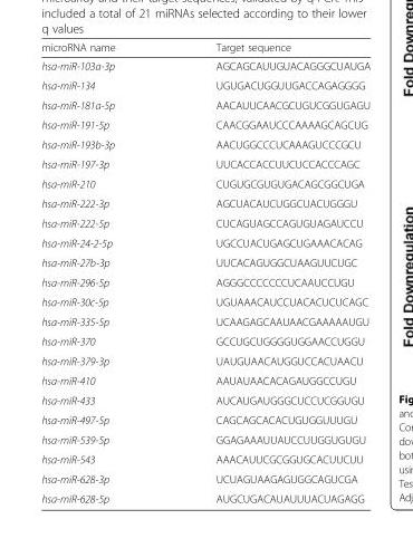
<table><thead><tr><td>microRNA name</td><td>Target sequence</td></tr></thead><tbody><tr><td>hsa-miR-103a-3p</td><td>AGCAGCAUUGUACAGGGCUAUGA</td></tr><tr><td>hsa-miR-134</td><td>UGUGACUGGUUGACCAGAGGGG</td></tr><tr><td>hsa-miR-181a-5p</td><td>AACAUUCAACGCUGUCGGUGAGU</td></tr><tr><td>hsa-miR-191-5p</td><td>CAACGGAAUCCCAAAAGCAGCUG</td></tr><tr><td>hsa-miR-193b-3p</td><td>AACUGGCCCUCAAAGUCCCGCU</td></tr><tr><td>hsa-miR-197-3p</td><td>UUCACCACCUUCUCCACCCAGC</td></tr><tr><td>hsa-miR-210</td><td>CUGUGCGUGUGACAGCGGCUGA</td></tr><tr><td>hsa-miR-222-3p</td><td>AGCUACAUCUGGCUACUGGGU</td></tr><tr><td>hsa-miR-222-5p</td><td>CUCAGUAGCCAGUGUAGAUCCU</td></tr><tr><td>hsa-miR-24-2-5p</td><td>UGCCUACUGAGCUGAAACACAG</td></tr><tr><td>hsa-miR-27b-3p</td><td>UUCACAGUGGCUAAGUUCUGC</td></tr><tr><td>hsa-miR-296-5p</td><td>AGGGCCCCCCCUCAAUCCUGU</td></tr><tr><td>hsa-miR-30c-5p</td><td>UGUAAACAUCCUACACUCUCAGC</td></tr><tr><td>hsa-miR-335-5p</td><td>UCAAGAGCAAUAACGAAAAAUGU</td></tr><tr><td>hsa-miR-370</td><td>GCCUGCUGGGGUGGAACCUGGU</td></tr><tr><td>hsa-miR-379-3p</td><td>UAUGUAACAUGGUCCACUAACU</td></tr><tr><td>hsa-miR-410</td><td>AAUAUAACACAGAUGGCCUGU</td></tr><tr><td>hsa-miR-433</td><td>AUCAUGAUGGGCUCCUCGGUGU</td></tr><tr><td>hsa-miR-497-5p</td><td>CAGCAGCACACUGUGGUUUGU</td></tr><tr><td>hsa-miR-539-5p</td><td>GGAGAAAUUAUCCUUGGUGUGU</td></tr><tr><td>hsa-miR-543</td><td>AAACAUUCGCGGUGCACUUCUU</td></tr><tr><td>hsa-miR-628-3p</td><td>UCUAGUAAGAGUGGCAGUCGA</td></tr><tr><td>hsa-miR-628-5p</td><td>AUGCUGACAUAUUUACUAGAGG</td></tr></tbody></table>